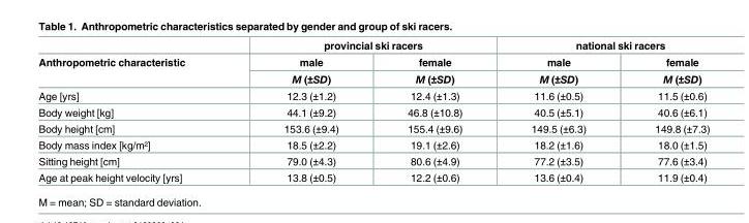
<table><thead><tr><td rowspan="3">Anthropometric characteristic</td><td colspan="2">provincial ski racers</td><td colspan="2">national ski racers</td></tr><tr><td rowspan="2">male M (±SD)</td><td rowspan="2">female M (±SD)</td><td rowspan="2">male M (±SD)</td><td rowspan="2">female M (±SD)</td></tr><tr></tr></thead><tbody><tr><td>Age [yrs]</td><td>12.3 (±1.2)</td><td>12.4 (±1.3)</td><td>11.6 (±0.5)</td><td>11.5 (±0.6)</td></tr><tr><td>Body weight [kg]</td><td>44.1 (±9.2)</td><td>46.8 (±10.8)</td><td>40.5 (±5.1)</td><td>40.6 (±6.1)</td></tr><tr><td>Body height [cm]</td><td>153.6 (±9.4)</td><td>155.4 (±9.6)</td><td>149.5 (±6.3)</td><td>149.8 (±7.3)</td></tr><tr><td>Body mass index [kg/m²]</td><td>18.5 (±2.2)</td><td>19.1 (±2.6)</td><td>18.2 (±1.6)</td><td>18.0 (±1.5)</td></tr><tr><td>Sitting height [cm]</td><td>79.0 (±4.3)</td><td>80.6 (±4.9)</td><td>77.2 (±3.5)</td><td>77.6 (±3.4)</td></tr><tr><td>Age at peak height velocity [yrs]</td><td>13.8 (±0.5)</td><td>12.2 (±0.6)</td><td>13.6 (±0.4)</td><td>11.9 (±0.4)</td></tr></tbody></table>